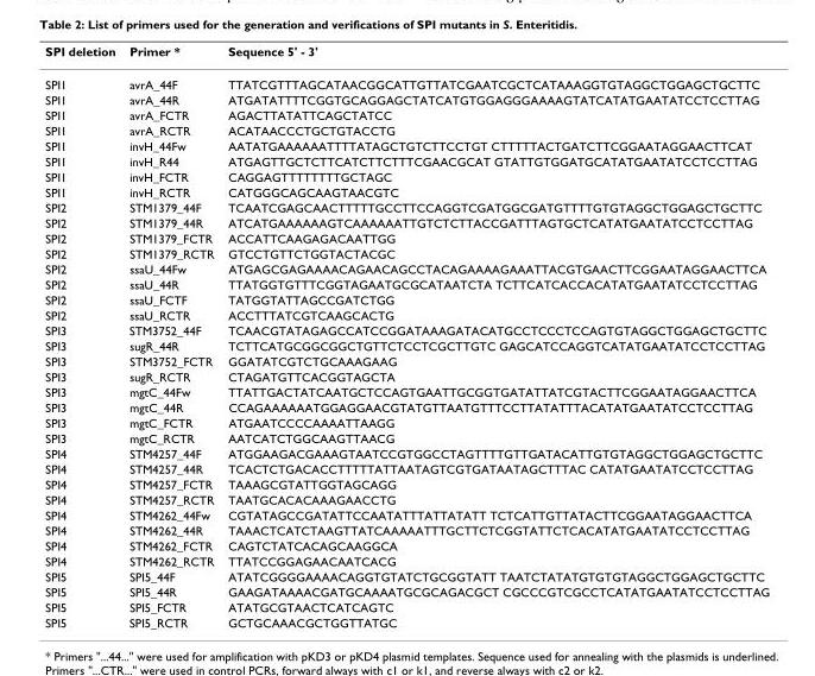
<table><thead><tr><td>SPI deletion</td><td>Primer *</td><td>Sequence 5&#x27; - 3&#x27;</td></tr></thead><tbody><tr><td>SPI1</td><td>avrA_44F</td><td>TTATCGTTTAGCATAACGGCATTGTTATCGAATCGCTCATAAAGGTGTAGGCTGGAGCTGCTTC</td></tr><tr><td>SPI1</td><td>avrA_44R</td><td>ATGATATTTTCGGTGCAGGAGCTATCATGTGGAGGGAAAAGTATCATATGAATATCCTCCTTAG</td></tr><tr><td>SPI1</td><td>avrA_FCTR</td><td>AGACTTATATTCAGCTATCC</td></tr><tr><td>SPI1</td><td>avrA_RCTR</td><td>ACATAACCCTGCTGTACCTG</td></tr><tr><td>SPI1</td><td>invH_44Fw</td><td>AATATGAAAAAATTTTATAGCTGTCTTCCTGT CTTTTTACTGATCTTCGGAATAGGAACTTCAT</td></tr><tr><td>SPI1</td><td>invH_R44</td><td>ATGAGTTGCTCTTCATCTTCTTTCGAACGCAT GTATTGTGGATGCATATGAATATCCTCCTTAG</td></tr><tr><td>SPI1</td><td>invH_FCTR</td><td>CAGGAGTTTTTTTTGCTAGC</td></tr><tr><td>SPI1</td><td>invH_RCTR</td><td>CATGGGCAGCAAGTAACGTC</td></tr><tr><td>SPI2</td><td>STM1379_44F</td><td>TCAATCGAGCAACTTTTTGCCTTCCAGGTCGATGGCGATGTTTTGTGTAGGCTGGAGCTGCTTC</td></tr><tr><td>SPI2</td><td>STM1379_44R</td><td>ATCATGAAAAAAGTCAAAAAATTGTCTCTTACCGATTTAGTGCTCATATGAATATCCTCCTTAG</td></tr><tr><td>SPI2</td><td>STM1379_FCTR</td><td>ACCATTCAAGAGACAATTGG</td></tr><tr><td>SPI2</td><td>STM1379_RCTR</td><td>GTCCTGTTCTGGTACTACGC</td></tr><tr><td>SPI2</td><td>ssaU_44Fw</td><td>ATGAGCGAGAAAACAGAACAGCCTACAGAAAAGAAATTACGTGAACTTCGGAATAGGAACTTCA</td></tr><tr><td>SPI2</td><td>ssaU_44R</td><td>TTATGGTGTTTCGGTAGAATGCGCATAATCTA TCTTCATCACCACATATGAATATCCTCCTTAG</td></tr><tr><td>SPI2</td><td>ssaU_FCTF</td><td>TATGGTATTAGCCGATCTGG</td></tr><tr><td>SPI2</td><td>ssaU_RCTR</td><td>ACCTTTATCGTCAAGCACTG</td></tr><tr><td>SPI3</td><td>STM3752_44F</td><td>TCAACGTATAGAGCCATCCGGATAAAGATACATGCCTCCCTCCAGTGTAGGCTGGAGCTGCTTC</td></tr><tr><td>SPI3</td><td>sugR_44R</td><td>TCTTCATGCGGCGGCTGTTCTCCTCGCTTGTC GAGCATCCAGGTCATATGAATATCCTCCTTAG</td></tr><tr><td>SPI3</td><td>STM3752_FCTR</td><td>GGATATCGTCTGCAAAGAAG</td></tr><tr><td>SPI3</td><td>sugR_RCTR</td><td>CTAGATGTTCACGGTAGCTA</td></tr><tr><td>SPI3</td><td>mgtC_44Fw</td><td>TTATTGACTATCAATGCTCCAGTGAATTGCGGTGATATTATCGTACTTCGGAATAGGAACTTCA</td></tr><tr><td>SPI3</td><td>mgtC_44R</td><td>CCAGAAAAAATGGAGGAACGTATGTTAATGTTTCCTTATATTTACATATGAATATCCTCCTTAG</td></tr><tr><td>SPI3</td><td>mgtC_FCTR</td><td>ATGAATCCCCAAAATTAAGG</td></tr><tr><td>SPI3</td><td>mgtC_RCTR</td><td>AATCATCTGGCAAGTTAACG</td></tr><tr><td>SPI4</td><td>STM4257_44F</td><td>ATGGAAGACGAAAGTAATCCGTGGCCTAGTTTTGTTGATACATTGTGTAGGCTGGAGCTGCTTC</td></tr><tr><td>SPI4</td><td>STM4257_44R</td><td>TCACTCTGACACCTTTTTATTAATAGTCGTGATAATAGCTTTAC CATATGAATATCCTCCTTAG</td></tr><tr><td>SPI4</td><td>STM4257_FCTR</td><td>TAAAGCGTATTGGTAGCAGG</td></tr><tr><td>SPI4</td><td>STM4257_RCTR</td><td>TAATGCACACAAAGAACCTG</td></tr><tr><td>SPI4</td><td>STM4262_44Fw</td><td>CGTATAGCCGATATTCCAATATTTATTATATT TCTCATTGTTATACTTCGGAATAGGAACTTCA</td></tr><tr><td>SPI4</td><td>STM4262_44R</td><td>TAAACTCATCTAAGTTATCAAAAATTTGCTTCTCGGTATTCTCACATATGAATATCCTCCTTAG</td></tr><tr><td>SPI4</td><td>STM4262_FCTR</td><td>CAGTCTATCACAGCAAGGCA</td></tr><tr><td>SPI4</td><td>STM4262_RCTR</td><td>TTATCCGGAGAACAATCACG</td></tr><tr><td>SPI5</td><td>SPI5_44F</td><td>ATATCGGGGAAAACAGGTGTATCTGCGGTATT TAATCTATATGTGTGTAGGCTGGAGCTGCTTC</td></tr><tr><td>SPI5</td><td>SPI5_44R</td><td>GAAGATAAAACGATGCAAAATGCGCAGACGCT CGCCCGTCGCCTCATATGAATATCCTCCTTAG</td></tr><tr><td>SPI5</td><td>SPI5_FCTR</td><td>ATATGCGTAACTCATCAGTC</td></tr><tr><td>SPI5</td><td>SPI5_RCTR</td><td>GCTGCAAACGCTGGTTATGC</td></tr></tbody></table>